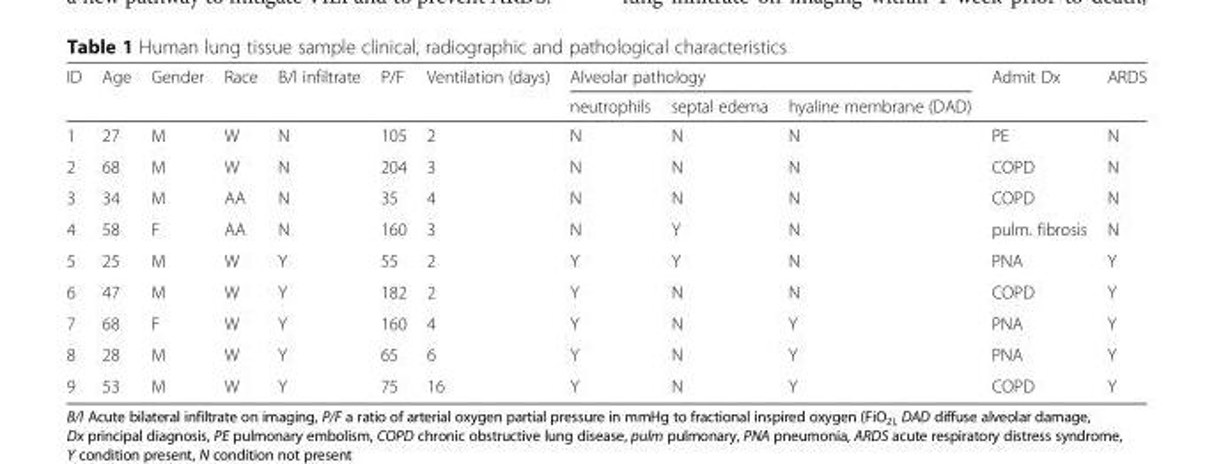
<table><thead><tr><td rowspan="2">ID</td><td rowspan="2">Age</td><td rowspan="2">Gender</td><td rowspan="2">Race</td><td rowspan="2">B/l infiltrate</td><td rowspan="2">P/F</td><td rowspan="2">Ventilation (days)</td><td colspan="3">Alveolar pathology</td><td rowspan="2">Admit Dx</td><td rowspan="2">ARDS</td></tr><tr><td>neutrophils</td><td>septal edema</td><td>hyaline membrane (DAD)</td></tr></thead><tbody><tr><td>1</td><td>27</td><td>M</td><td>W</td><td>N</td><td>105</td><td>2</td><td>N</td><td>N</td><td>N</td><td>PE</td><td>N</td></tr><tr><td>2</td><td>68</td><td>M</td><td>W</td><td>N</td><td>204</td><td>3</td><td>N</td><td>N</td><td>N</td><td>COPD</td><td>N</td></tr><tr><td>3</td><td>34</td><td>M</td><td>AA</td><td>N</td><td>35</td><td>4</td><td>N</td><td>N</td><td>N</td><td>COPD</td><td>N</td></tr><tr><td>4</td><td>58</td><td>F</td><td>AA</td><td>N</td><td>160</td><td>3</td><td>N</td><td>Y</td><td>N</td><td>pulm. fibrosis</td><td>N</td></tr><tr><td>5</td><td>25</td><td>M</td><td>W</td><td>Y</td><td>55</td><td>2</td><td>Y</td><td>Y</td><td>N</td><td>PNA</td><td>Y</td></tr><tr><td>6</td><td>47</td><td>M</td><td>W</td><td>Y</td><td>182</td><td>2</td><td>Y</td><td>N</td><td>N</td><td>COPD</td><td>Y</td></tr><tr><td>7</td><td>68</td><td>F</td><td>W</td><td>Y</td><td>160</td><td>4</td><td>Y</td><td>N</td><td>Y</td><td>PNA</td><td>Y</td></tr><tr><td>8</td><td>28</td><td>M</td><td>W</td><td>Y</td><td>65</td><td>6</td><td>Y</td><td>N</td><td>Y</td><td>PNA</td><td>Y</td></tr><tr><td>9</td><td>53</td><td>M</td><td>W</td><td>Y</td><td>75</td><td>16</td><td>Y</td><td>N</td><td>Y</td><td>COPD</td><td>Y</td></tr></tbody></table>